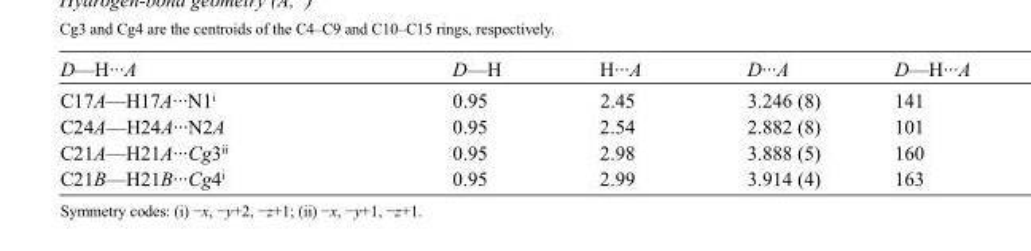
<table><tbody><tr><td>D—H···A</td><td>D—H</td><td>H···A</td><td>D···A</td><td>D—H···A</td></tr><tr><td>C17A—H17A···N1<sup>i</sup></td><td>0.95</td><td>2.45</td><td>3.246 (8)</td><td>141</td></tr><tr><td>C24A—H24A···N2A</td><td>0.95</td><td>2.54</td><td>2.882 (8)</td><td>101</td></tr><tr><td>C21A—H21A···Cg3<sup>ii</sup></td><td>0.95</td><td>2.98</td><td>3.888 (5)</td><td>160</td></tr><tr><td>C21B—H21B···Cg4<sup>i</sup></td><td>0.95</td><td>2.99</td><td>3.914 (4)</td><td>163</td></tr></tbody></table>